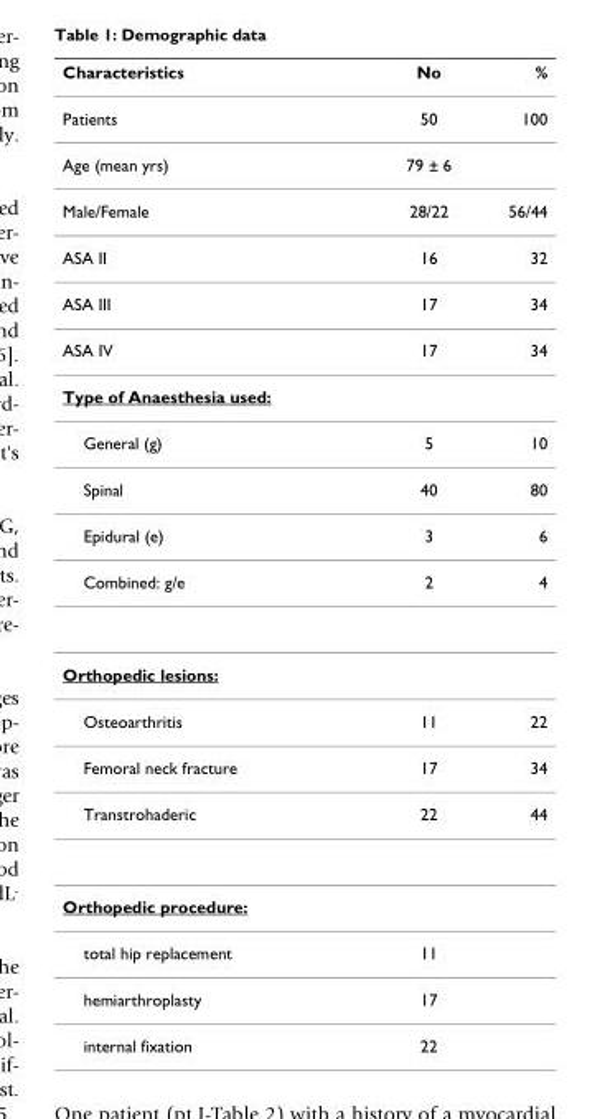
<table><thead><tr><td>Characteristics</td><td>No</td><td>%</td></tr></thead><tbody><tr><td>Patients</td><td>50</td><td>100</td></tr><tr><td>Age (mean yrs)</td><td>79 ± 6</td><td></td></tr><tr><td>Male/Female</td><td>28/22</td><td>56/44</td></tr><tr><td>ASA II</td><td>16</td><td>32</td></tr><tr><td>ASA III</td><td>17</td><td>34</td></tr><tr><td>ASA IV</td><td>17</td><td>34</td></tr><tr><td colspan="3">Type of Anaesthesia used:</td></tr><tr><td>General (g)</td><td>5</td><td>10</td></tr><tr><td>Spinal</td><td>40</td><td>80</td></tr><tr><td>Epidural (e)</td><td>3</td><td>6</td></tr><tr><td>Combined: g/e</td><td>2</td><td>4</td></tr><tr><td colspan="3">Orthopedic lesions:</td></tr><tr><td>Osteoarthritis</td><td>11</td><td>22</td></tr><tr><td>Femoral neck fracture</td><td>17</td><td>34</td></tr><tr><td>Transtrohaderic</td><td>22</td><td>44</td></tr><tr><td colspan="3">Orthopedic procedure:</td></tr><tr><td>total hip replacement</td><td>11</td><td></td></tr><tr><td>hemiarthroplasty</td><td>17</td><td></td></tr><tr><td>internal fixation</td><td>22</td><td></td></tr></tbody></table>